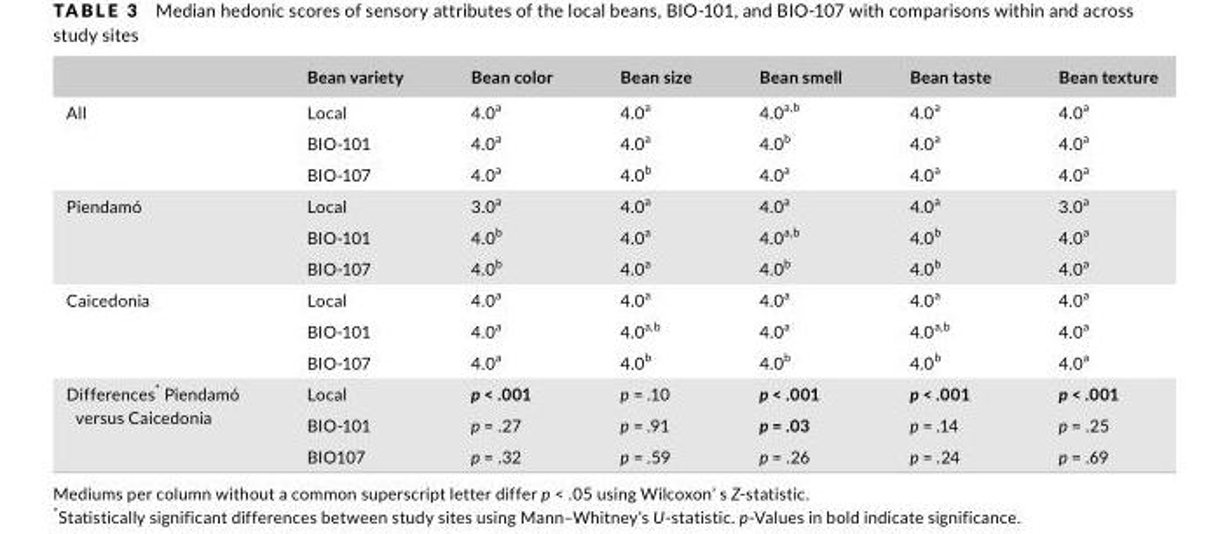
<table><thead><tr><td></td><td>Bean variety</td><td>Bean color</td><td>Bean size</td><td>Bean smell</td><td>Bean taste</td><td>Bean texture</td></tr></thead><tbody><tr><td rowspan="3">All</td><td>Local</td><td>4.0<sup>a</sup></td><td>4.0<sup>a</sup></td><td>4.0<sup>a,b</sup></td><td>4.0<sup>a</sup></td><td>4.0<sup>a</sup></td></tr><tr><td>BIO- 101</td><td>4.0<sup>a</sup></td><td>4.0<sup>a</sup></td><td>4.0<sup>b</sup></td><td>4.0<sup>a</sup></td><td>4.0<sup>a</sup></td></tr><tr><td>BIO- 107</td><td>4.0<sup>a</sup></td><td>4.0<sup>b</sup></td><td>4.0<sup>a</sup></td><td>4.0<sup>a</sup></td><td>4.0<sup>a</sup></td></tr><tr><td rowspan="3">Piendamó</td><td>Local</td><td>3.0<sup>a</sup></td><td>4.0<sup>a</sup></td><td>4.0<sup>a</sup></td><td>4.0<sup>a</sup></td><td>3.0<sup>a</sup></td></tr><tr><td>BIO- 101</td><td>4.0<sup>b</sup></td><td>4.0<sup>a</sup></td><td>4.0<sup>a,b</sup></td><td>4.0<sup>b</sup></td><td>4.0<sup>a</sup></td></tr><tr><td>BIO- 107</td><td>4.0<sup>b</sup></td><td>4.0<sup>a</sup></td><td>4.0<sup>b</sup></td><td>4.0<sup>b</sup></td><td>4.0<sup>a</sup></td></tr><tr><td rowspan="3">Caicedonia</td><td>Local</td><td>4.0<sup>a</sup></td><td>4.0<sup>a</sup></td><td>4.0<sup>a</sup></td><td>4.0<sup>a</sup></td><td>4.0<sup>a</sup></td></tr><tr><td>BIO- 101</td><td>4.0<sup>a</sup></td><td>4.0<sup>a,b</sup></td><td>4.0<sup>a</sup></td><td>4.0<sup>a,b</sup></td><td>4.0<sup>a</sup></td></tr><tr><td>BIO- 107</td><td>4.0<sup>a</sup></td><td>4.0<sup>b</sup></td><td>4.0<sup>b</sup></td><td>4.0<sup>b</sup></td><td>4.0<sup>a</sup></td></tr><tr><td rowspan="3">Differences* Piendamó versus Caicedonia</td><td>Local</td><td>p &lt; .001</td><td>p = .10</td><td>p &lt; .001</td><td>p &lt; .001</td><td>p &lt; .001</td></tr><tr><td>BIO- 101</td><td>p = .27</td><td>p = .91</td><td>p = .03</td><td>p = .14</td><td>p = .25</td></tr><tr><td>BIO107</td><td>p = .32</td><td>p = .59</td><td>p = .26</td><td>p = .24</td><td>p = .69</td></tr></tbody></table>